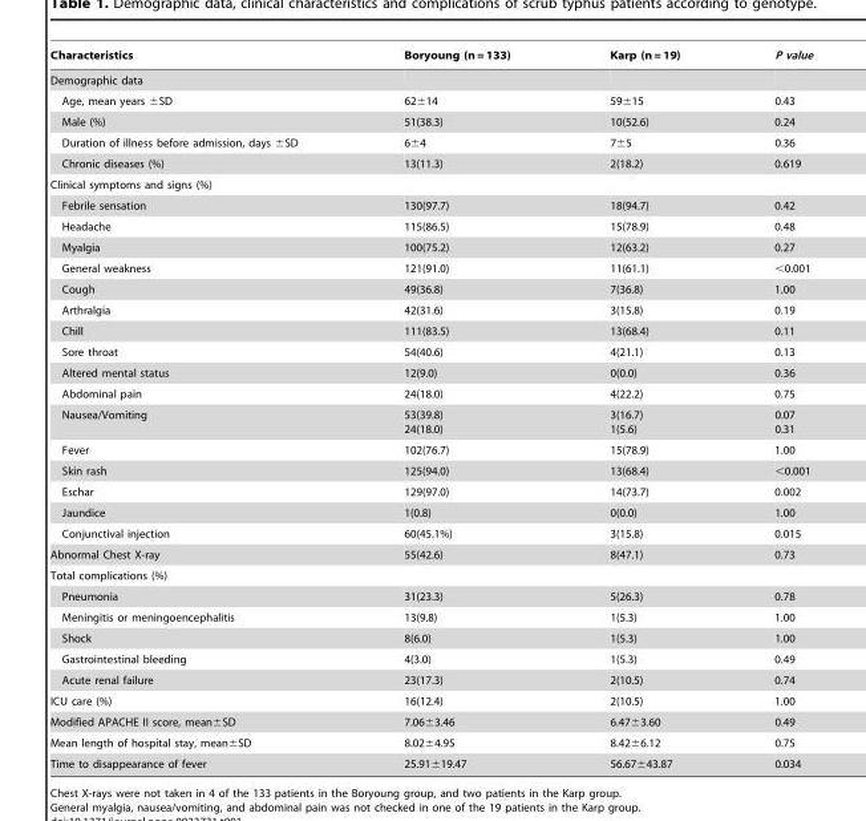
<table><thead><tr><td>Characteristics</td><td>Boryoung (n = 133)</td><td>Karp (n = 19)</td><td>P value</td></tr></thead><tbody><tr><td colspan="4">Demographic data</td></tr><tr><td>Age, mean years ±SD</td><td>62±14</td><td>59±15</td><td>0.43</td></tr><tr><td>Male (%)</td><td>51(38.3)</td><td>10(52.6)</td><td>0.24</td></tr><tr><td>Duration of illness before admission, days ±SD</td><td>6±4</td><td>7±5</td><td>0.36</td></tr><tr><td>Chronic diseases (%)</td><td>13(11.3)</td><td>2(18.2)</td><td>0.619</td></tr><tr><td colspan="4">Clinical symptoms and signs (%)</td></tr><tr><td>Febrile sensation</td><td>130(97.7)</td><td>18(94.7)</td><td>0.42</td></tr><tr><td>Headache</td><td>115(86.5)</td><td>15(78.9)</td><td>0.48</td></tr><tr><td>Myalgia</td><td>100(75.2)</td><td>12(63.2)</td><td>0.27</td></tr><tr><td>General weakness</td><td>121(91.0)</td><td>11(61.1)</td><td>&lt;0.001</td></tr><tr><td>Cough</td><td>49(36.8)</td><td>7(36.8)</td><td>1.00</td></tr><tr><td>Arthralgia</td><td>42(31.6)</td><td>3(15.8)</td><td>0.19</td></tr><tr><td>Chill</td><td>111(83.5)</td><td>13(68.4)</td><td>0.11</td></tr><tr><td>Sore throat</td><td>54(40.6)</td><td>4(21.1)</td><td>0.13</td></tr><tr><td>Altered mental status</td><td>12(9.0)</td><td>0(0.0)</td><td>0.36</td></tr><tr><td>Abdominal pain</td><td>24(18.0)</td><td>4(22.2)</td><td>0.75</td></tr><tr><td>Nausea/Vomiting</td><td>53(39.8) 24(18.0)</td><td>3(16.7) 1(5.6)</td><td>0.07 0.31</td></tr><tr><td>Fever</td><td>102(76.7)</td><td>15(78.9)</td><td>1.00</td></tr><tr><td>Skin rash</td><td>125(94.0)</td><td>13(68.4)</td><td>&lt;0.001</td></tr><tr><td>Eschar</td><td>129(97.0)</td><td>14(73.7)</td><td>0.002</td></tr><tr><td>Jaundice</td><td>1(0.8)</td><td>0(0.0)</td><td>1.00</td></tr><tr><td>Conjunctival injection</td><td>60(45.1%)</td><td>3(15.8)</td><td>0.015</td></tr><tr><td>Abnormal Chest X-ray</td><td>55(42.6)</td><td>8(47.1)</td><td>0.73</td></tr><tr><td colspan="4">Total complications (%)</td></tr><tr><td>Pneumonia</td><td>31(23.3)</td><td>5(26.3)</td><td>0.78</td></tr><tr><td>Meningitis or meningoencephalitis</td><td>13(9.8)</td><td>1(5.3)</td><td>1.00</td></tr><tr><td>Shock</td><td>8(6.0)</td><td>1(5.3)</td><td>1.00</td></tr><tr><td>Gastrointestinal bleeding</td><td>4(3.0)</td><td>1(5.3)</td><td>0.49</td></tr><tr><td>Acute renal failure</td><td>23(17.3)</td><td>2(10.5)</td><td>0.74</td></tr><tr><td>ICU care (%)</td><td>16(12.4)</td><td>2(10.5)</td><td>1.00</td></tr><tr><td>Modified APACHE II score, mean±SD</td><td>7.06±3.46</td><td>6.47±3.60</td><td>0.49</td></tr><tr><td>Mean length of hospital stay, mean±SD</td><td>8.02±4.95</td><td>8.42±6.12</td><td>0.75</td></tr><tr><td>Time to disappearance of fever</td><td>25.91±19.47</td><td>56.67±43.87</td><td>0.034</td></tr></tbody></table>